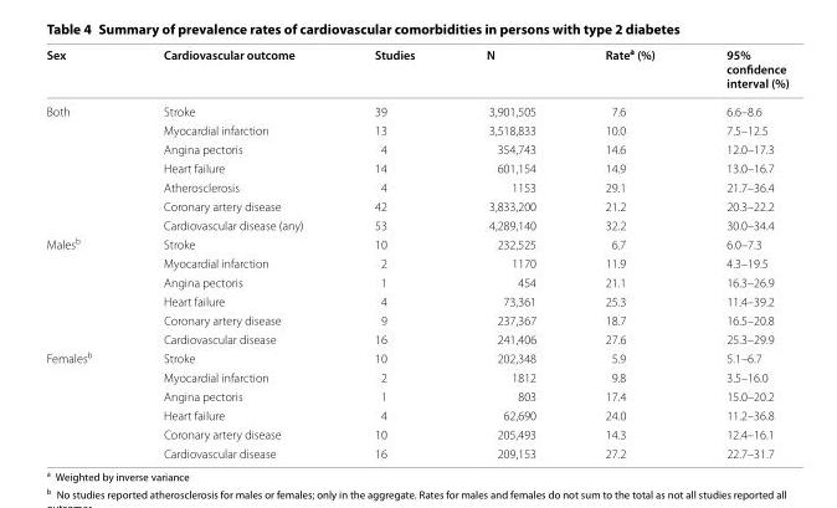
<table><thead><tr><td>Sex</td><td>Cardiovascular outcome</td><td>Studies</td><td>N</td><td>Rate<sup>a</sup> (%)</td><td>95% confidence interval (%)</td></tr></thead><tbody><tr><td rowspan="7">Both</td><td>Stroke</td><td>39</td><td>3,901,505</td><td>7.6</td><td>6.6–8.6</td></tr><tr><td>Myocardial infarction</td><td>13</td><td>3,518,833</td><td>10.0</td><td>7.5–12.5</td></tr><tr><td>Angina pectoris</td><td>4</td><td>354,743</td><td>14.6</td><td>12.0–17.3</td></tr><tr><td>Heart failure</td><td>14</td><td>601,154</td><td>14.9</td><td>13.0–16.7</td></tr><tr><td>Atherosclerosis</td><td>4</td><td>1153</td><td>29.1</td><td>21.7–36.4</td></tr><tr><td>Coronary artery disease</td><td>42</td><td>3,833,200</td><td>21.2</td><td>20.3–22.2</td></tr><tr><td>Cardiovascular disease (any)</td><td>53</td><td>4,289,140</td><td>32.2</td><td>30.0–34.4</td></tr><tr><td rowspan="6">Males<sup>b</sup></td><td>Stroke</td><td>10</td><td>232,525</td><td>6.7</td><td>6.0–7.3</td></tr><tr><td>Myocardial infarction</td><td>2</td><td>1170</td><td>11.9</td><td>4.3–19.5</td></tr><tr><td>Angina pectoris</td><td>1</td><td>454</td><td>21.1</td><td>16.3–26.9</td></tr><tr><td>Heart failure</td><td>4</td><td>73,361</td><td>25.3</td><td>11.4–39.2</td></tr><tr><td>Coronary artery disease</td><td>9</td><td>237,367</td><td>18.7</td><td>16.5–20.8</td></tr><tr><td>Cardiovascular disease</td><td>16</td><td>241,406</td><td>27.6</td><td>25.3–29.9</td></tr><tr><td rowspan="6">Females<sup>b</sup></td><td>Stroke</td><td>10</td><td>202,348</td><td>5.9</td><td>5.1–6.7</td></tr><tr><td>Myocardial infarction</td><td>2</td><td>1812</td><td>9.8</td><td>3.5–16.0</td></tr><tr><td>Angina pectoris</td><td>1</td><td>803</td><td>17.4</td><td>15.0–20.2</td></tr><tr><td>Heart failure</td><td>4</td><td>62,690</td><td>24.0</td><td>11.2–36.8</td></tr><tr><td>Coronary artery disease</td><td>10</td><td>205,493</td><td>14.3</td><td>12.4–16.1</td></tr><tr><td>Cardiovascular disease</td><td>16</td><td>209,153</td><td>27.2</td><td>22.7–31.7</td></tr></tbody></table>